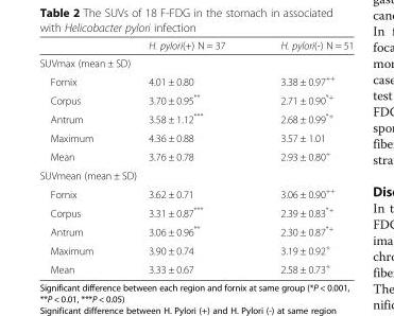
<table><thead><tr><td></td><td>H. pylori(+) N = 37</td><td>H. pylori(-) N = 51</td></tr></thead><tbody><tr><td colspan="3">SUVmax (mean ± SD)</td></tr><tr><td>Fornix</td><td>4.01 ± 0.80</td><td>3.38 ± 0.97<sup>++</sup></td></tr><tr><td>Corpus</td><td>3.70 ± 0.95**</td><td>2.71 ± 0.90<sup>*+</sup></td></tr><tr><td>Antrum</td><td>3.58 ± 1.12***</td><td>2.68 ± 0.99<sup>*+</sup></td></tr><tr><td>Maximum</td><td>4.36 ± 0.88</td><td>3.57 ± 1.01</td></tr><tr><td>Mean</td><td>3.76 ± 0.78</td><td>2.93 ± 0.80<sup>+</sup></td></tr><tr><td colspan="3">SUVmean (mean ± SD)</td></tr><tr><td>Fornix</td><td>3.62 ± 0.71</td><td>3.06 ± 0.90<sup>++</sup></td></tr><tr><td>Corpus</td><td>3.31 ± 0.87***</td><td>2.39 ± 0.83<sup>*+</sup></td></tr><tr><td>Antrum</td><td>3.06 ± 0.96**</td><td>2.30 ± 0.87<sup>*+</sup></td></tr><tr><td>Maximum</td><td>3.90 ± 0.74</td><td>3.19 ± 0.92<sup>+</sup></td></tr><tr><td>Mean</td><td>3.33 ± 0.67</td><td>2.58 ± 0.73<sup>+</sup></td></tr></tbody></table>